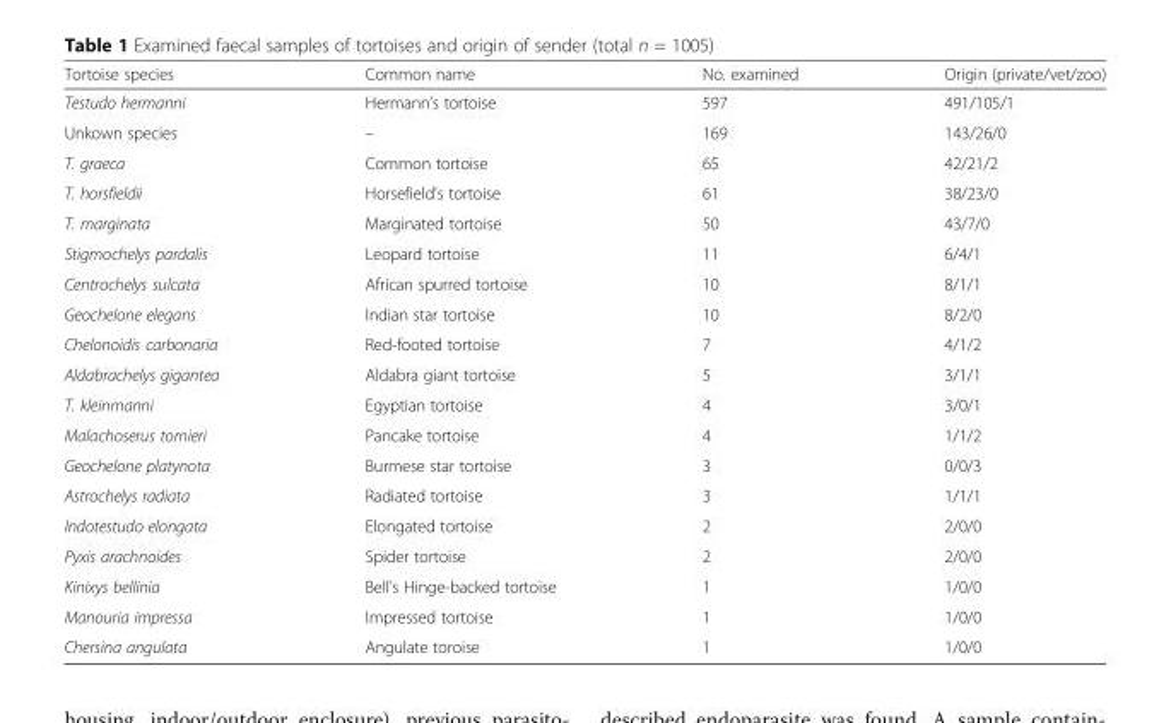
<table><thead><tr><td>Tortoise species</td><td>Common name</td><td>No. examined</td><td>Origin (private/vet/zoo)</td></tr></thead><tbody><tr><td>Testudo hermanni</td><td>Hermann’s tortoise</td><td>597</td><td>491/105/1</td></tr><tr><td>Unkown species</td><td>–</td><td>169</td><td>143/26/0</td></tr><tr><td>T. graeca</td><td>Common tortoise</td><td>65</td><td>42/21/2</td></tr><tr><td>T. horsfieldii</td><td>Horsefield’s tortoise</td><td>61</td><td>38/23/0</td></tr><tr><td>T. marginata</td><td>Marginated tortoise</td><td>50</td><td>43/7/0</td></tr><tr><td>Stigmochelys pardalis</td><td>Leopard tortoise</td><td>11</td><td>6/4/1</td></tr><tr><td>Centrochelys sulcata</td><td>African spurred tortoise</td><td>10</td><td>8/1/1</td></tr><tr><td>Geochelone elegans</td><td>Indian star tortoise</td><td>10</td><td>8/2/0</td></tr><tr><td>Chelonoidis carbonaria</td><td>Red-footed tortoise</td><td>7</td><td>4/1/2</td></tr><tr><td>Aldabrachelys gigantea</td><td>Aldabra giant tortoise</td><td>5</td><td>3/1/1</td></tr><tr><td>T. kleinmanni</td><td>Egyptian tortoise</td><td>4</td><td>3/0/1</td></tr><tr><td>Malachoserus tornieri</td><td>Pancake tortoise</td><td>4</td><td>1/1/2</td></tr><tr><td>Geochelone platynota</td><td>Burmese star tortoise</td><td>3</td><td>0/0/3</td></tr><tr><td>Astrochelys radiata</td><td>Radiated tortoise</td><td>3</td><td>1/1/1</td></tr><tr><td>Indotestudo elongata</td><td>Elongated tortoise</td><td>2</td><td>2/0/0</td></tr><tr><td>Pyxis arachnoides</td><td>Spider tortoise</td><td>2</td><td>2/0/0</td></tr><tr><td>Kinixys bellinia</td><td>Bell’s Hinge-backed tortoise</td><td>1</td><td>1/0/0</td></tr><tr><td>Manouria impressa</td><td>Impressed tortoise</td><td>1</td><td>1/0/0</td></tr><tr><td>Chersina angulata</td><td>Angulate toroise</td><td>1</td><td>1/0/0</td></tr></tbody></table>